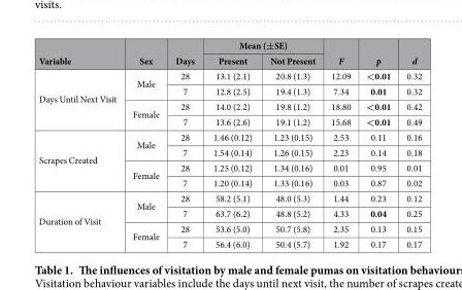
<table><thead><tr><td rowspan="2">Variable</td><td rowspan="2">Sex</td><td rowspan="2">Days</td><td colspan="2">Mean (±SE)</td><td rowspan="2">F</td><td rowspan="2">p</td><td rowspan="2">d</td></tr><tr><td>Present</td><td>Not Present</td></tr></thead><tbody><tr><td rowspan="4">Days Until Next Visit</td><td rowspan="2">Male</td><td>28</td><td>13.1 (2.1)</td><td>20.8 (1.3)</td><td>12.09</td><td>&lt;0.01</td><td>0.32</td></tr><tr><td>7</td><td>12.8 (2.5)</td><td>19.4 (1.3)</td><td>7.34</td><td>0.01</td><td>0.32</td></tr><tr><td rowspan="2">Female</td><td>28</td><td>14.0 (2.2)</td><td>19.8 (1.2)</td><td>18.80</td><td>&lt;0.01</td><td>0.42</td></tr><tr><td>7</td><td>13.6 (2.6)</td><td>19.1 (1.2)</td><td>15.68</td><td>&lt;0.01</td><td>0.49</td></tr><tr><td rowspan="4">Scrapes Created</td><td rowspan="2">Male</td><td>28</td><td>1.46 (0.12)</td><td>1.23 (0.15)</td><td>2.53</td><td>0.11</td><td>0.16</td></tr><tr><td>7</td><td>1.54 (0.14)</td><td>1.26 (0.15)</td><td>2.23</td><td>0.14</td><td>0.18</td></tr><tr><td rowspan="2">Female</td><td>28</td><td>1.25 (0.12)</td><td>1.34 (0.16)</td><td>0.01</td><td>0.95</td><td>0.01</td></tr><tr><td>7</td><td>1.20 (0.14)</td><td>1.33 (0.16)</td><td>0.03</td><td>0.87</td><td>0.02</td></tr><tr><td rowspan="4">Duration of Visit</td><td rowspan="2">Male</td><td>28</td><td>58.2 (5.1)</td><td>48.0 (5.3)</td><td>1.44</td><td>0.23</td><td>0.12</td></tr><tr><td>7</td><td>63.7 (6.2)</td><td>48.8 (5.2)</td><td>4.33</td><td>0.04</td><td>0.25</td></tr><tr><td rowspan="2">Female</td><td>28</td><td>53.6 (5.0)</td><td>50.7 (5.8)</td><td>2.35</td><td>0.13</td><td>0.15</td></tr><tr><td>7</td><td>56.4 (6.0)</td><td>50.4 (5.7)</td><td>1.92</td><td>0.17</td><td>0.17</td></tr></tbody></table>